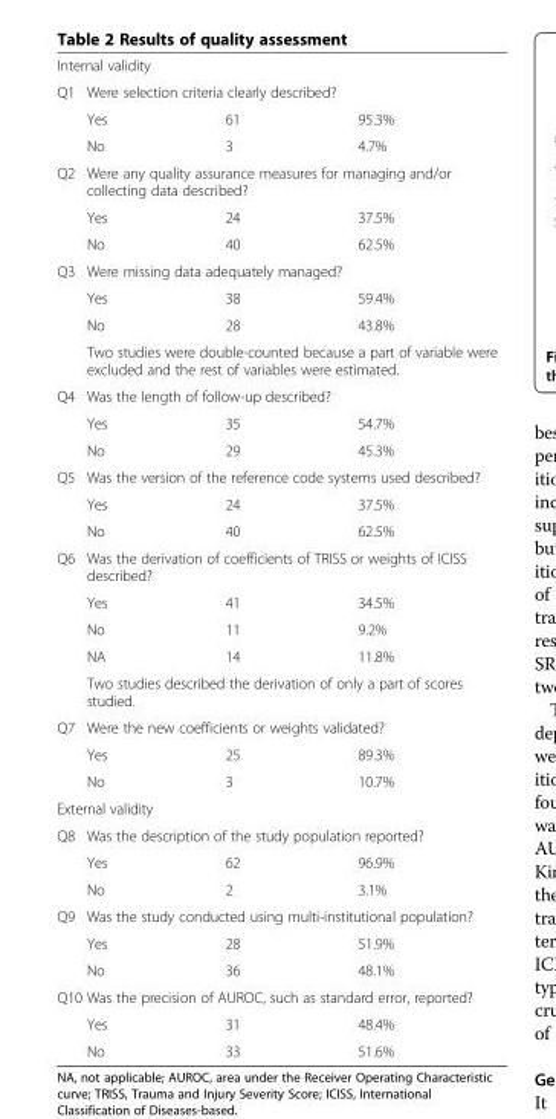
<table><tbody><tr><td colspan="4">Internal validity</td></tr><tr><td rowspan="3">Q1</td><td colspan="3">Were selection criteria clearly described?</td></tr><tr><td>Yes</td><td>61</td><td>95.3%</td></tr><tr><td>No</td><td>3</td><td>4.7%</td></tr><tr><td rowspan="3">Q2</td><td colspan="3">Were any quality assurance measures for managing and/or collecting data described?</td></tr><tr><td>Yes</td><td>24</td><td>37.5%</td></tr><tr><td>No</td><td>40</td><td>62.5%</td></tr><tr><td rowspan="4">Q3</td><td colspan="3">Were missing data adequately managed?</td></tr><tr><td>Yes</td><td>38</td><td>59.4%</td></tr><tr><td>No</td><td>28</td><td>43.8%</td></tr><tr><td colspan="3">Two studies were double-counted because a part of variable were excluded and the rest of variables were estimated.</td></tr><tr><td rowspan="3">Q4</td><td colspan="3">Was the length of follow-up described?</td></tr><tr><td>Yes</td><td>35</td><td>54.7%</td></tr><tr><td>No</td><td>29</td><td>45.3%</td></tr><tr><td rowspan="3">Q5</td><td colspan="3">Was the version of the reference code systems used described?</td></tr><tr><td>Yes</td><td>24</td><td>37.5%</td></tr><tr><td>No</td><td>40</td><td>62.5%</td></tr><tr><td rowspan="5">Q6</td><td colspan="3">Was the derivation of coefficients of TRISS or weights of ICISS described?</td></tr><tr><td>Yes</td><td>41</td><td>34.5%</td></tr><tr><td>No</td><td>11</td><td>9.2%</td></tr><tr><td>NA</td><td>14</td><td>11.8%</td></tr><tr><td colspan="3">Two studies described the derivation of only a part of scores studied.</td></tr><tr><td rowspan="3">Q7</td><td colspan="3">Were the new coefficients or weights validated?</td></tr><tr><td>Yes</td><td>25</td><td>89.3%</td></tr><tr><td>No</td><td>3</td><td>10.7%</td></tr><tr><td colspan="4">External validity</td></tr><tr><td rowspan="3">Q8</td><td colspan="3">Was the description of the study population reported?</td></tr><tr><td>Yes</td><td>62</td><td>96.9%</td></tr><tr><td>No</td><td>2</td><td>3.1%</td></tr><tr><td rowspan="3">Q9</td><td colspan="3">Was the study conducted using multi-institutional population?</td></tr><tr><td>Yes</td><td>28</td><td>51.9%</td></tr><tr><td>No</td><td>36</td><td>48.1%</td></tr><tr><td rowspan="3">Q10</td><td colspan="3">Was the precision of AUROC, such as standard error, reported?</td></tr><tr><td>Yes</td><td>31</td><td>48.4%</td></tr><tr><td>No</td><td>33</td><td>51.6%</td></tr></tbody></table>